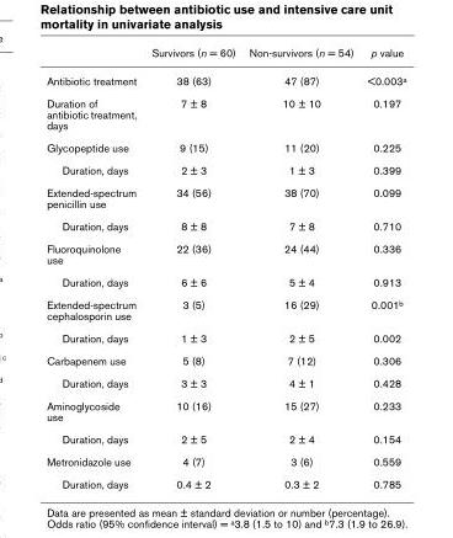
<table><thead><tr><td></td><td>Survivors (n = 60)</td><td>Non-survivors (n = 54)</td><td>p value</td></tr></thead><tbody><tr><td>Antibiotic treatment</td><td>38 (63)</td><td>47 (87)</td><td>&lt;0.003a</td></tr><tr><td>Duration of antibiotic treatment, days</td><td>7 ± 8</td><td>10 ± 10</td><td>0.197</td></tr><tr><td>Glycopeptide use</td><td>9 (15)</td><td>11 (20)</td><td>0.225</td></tr><tr><td>Duration, days</td><td>2 ± 3</td><td>1 ± 3</td><td>0.399</td></tr><tr><td>Extended-spectrum penicillin use</td><td>34 (56)</td><td>38 (70)</td><td>0.099</td></tr><tr><td>Duration, days</td><td>8 ± 8</td><td>7 ± 8</td><td>0.710</td></tr><tr><td>Fluoroquinolone use</td><td>22 (36)</td><td>24 (44)</td><td>0.336</td></tr><tr><td>Duration, days</td><td>6 ± 6</td><td>5 ± 4</td><td>0.913</td></tr><tr><td>Extended-spectrum cephalosporin use</td><td>3 (5)</td><td>16 (29)</td><td>0.001b</td></tr><tr><td>Duration, days</td><td>1 ± 3</td><td>2 ± 5</td><td>0.002</td></tr><tr><td>Carbapenem use</td><td>5 (8)</td><td>7 (12)</td><td>0.306</td></tr><tr><td>Duration, days</td><td>3 ± 3</td><td>4 ± 1</td><td>0.428</td></tr><tr><td>Aminoglycoside use</td><td>10 (16)</td><td>15 (27)</td><td>0.233</td></tr><tr><td>Duration, days</td><td>2 ± 5</td><td>2 ± 4</td><td>0.154</td></tr><tr><td>Metronidazole use</td><td>4 (7)</td><td>3 (6)</td><td>0.559</td></tr><tr><td>Duration, days</td><td>0.4 ± 2</td><td>0.3 ± 2</td><td>0.785</td></tr></tbody></table>